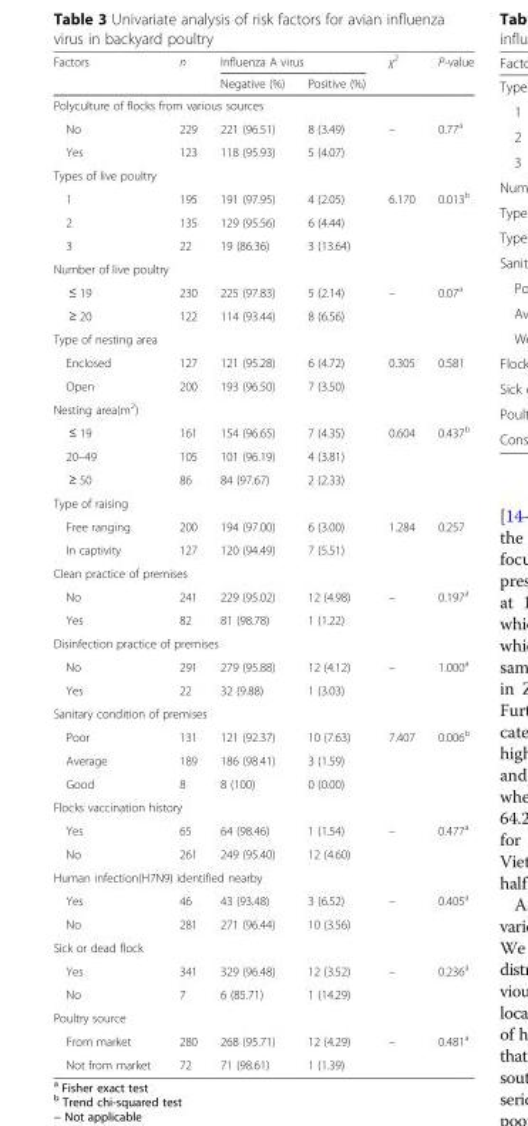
<table><thead><tr><td rowspan="2">Factors</td><td rowspan="2">n</td><td colspan="2">Influenza A virus</td><td rowspan="2">χ<sup>2</sup></td><td rowspan="2">P-value</td></tr><tr><td>Negative (%)</td><td>Positive (%)</td></tr></thead><tbody><tr><td colspan="6">Polyculture of flocks from various sources</td></tr><tr><td>No</td><td>229</td><td>221 (96.51)</td><td>8 (3.49)</td><td>–</td><td>0.77<sup>a</sup></td></tr><tr><td>Yes</td><td>123</td><td>118 (95.93)</td><td>5 (4.07)</td><td></td><td></td></tr><tr><td colspan="6">Types of live poultry</td></tr><tr><td>1</td><td>195</td><td>191 (97.95)</td><td>4 (2.05)</td><td>6.170</td><td>0.013<sup>b</sup></td></tr><tr><td>2</td><td>135</td><td>129 (95.56)</td><td>6 (4.44)</td><td></td><td></td></tr><tr><td>3</td><td>22</td><td>19 (86.36)</td><td>3 (13.64)</td><td></td><td></td></tr><tr><td colspan="6">Number of live poultry</td></tr><tr><td>≤ 19</td><td>230</td><td>225 (97.83)</td><td>5 (2.14)</td><td>–</td><td>0.07<sup>a</sup></td></tr><tr><td>≥ 20</td><td>122</td><td>114 (93.44)</td><td>8 (6.56)</td><td></td><td></td></tr><tr><td colspan="6">Type of nesting area</td></tr><tr><td>Enclosed</td><td>127</td><td>121 (95.28)</td><td>6 (4.72)</td><td>0.305</td><td>0.581</td></tr><tr><td>Open</td><td>200</td><td>193 (96.50)</td><td>7 (3.50)</td><td></td><td></td></tr><tr><td colspan="6">Nesting area(m<sup>2</sup>)</td></tr><tr><td>≤ 19</td><td>161</td><td>154 (96.65)</td><td>7 (4.35)</td><td>0.604</td><td>0.437<sup>b</sup></td></tr><tr><td>20–49</td><td>105</td><td>101 (96.19)</td><td>4 (3.81)</td><td></td><td></td></tr><tr><td>≥ 50</td><td>86</td><td>84 (97.67)</td><td>2 (2.33)</td><td></td><td></td></tr><tr><td colspan="6">Type of raising</td></tr><tr><td>Free ranging</td><td>200</td><td>194 (97.00)</td><td>6 (3.00)</td><td>1.284</td><td>0.257</td></tr><tr><td>In captivity</td><td>127</td><td>120 (94.49)</td><td>7 (5.51)</td><td></td><td></td></tr><tr><td colspan="6">Clean practice of premises</td></tr><tr><td>No</td><td>241</td><td>229 (95.02)</td><td>12 (4.98)</td><td>–</td><td>0.197<sup>a</sup></td></tr><tr><td>Yes</td><td>82</td><td>81 (98.78)</td><td>1 (1.22)</td><td></td><td></td></tr><tr><td colspan="6">Disinfection practice of premises</td></tr><tr><td>No</td><td>291</td><td>279 (95.88)</td><td>12 (4.12)</td><td>–</td><td>1.000<sup>a</sup></td></tr><tr><td>Yes</td><td>22</td><td>32 (9.88)</td><td>1 (3.03)</td><td></td><td></td></tr><tr><td colspan="6">Sanitary condition of premises</td></tr><tr><td>Poor</td><td>131</td><td>121 (92.37)</td><td>10 (7.63)</td><td>7.407</td><td>0.006<sup>b</sup></td></tr><tr><td>Average</td><td>189</td><td>186 (98.41)</td><td>3 (1.59)</td><td></td><td></td></tr><tr><td>Good</td><td>8</td><td>8 (100)</td><td>0 (0.00)</td><td></td><td></td></tr><tr><td colspan="6">Flocks vaccination history</td></tr><tr><td>Yes</td><td>65</td><td>64 (98.46)</td><td>1 (1.54)</td><td>–</td><td>0.477<sup>a</sup></td></tr><tr><td>No</td><td>261</td><td>249 (95.40)</td><td>12 (4.60)</td><td></td><td></td></tr><tr><td colspan="6">Human infection(H7N9) identified nearby</td></tr><tr><td>Yes</td><td>46</td><td>43 (93.48)</td><td>3 (6.52)</td><td>–</td><td>0.405<sup>a</sup></td></tr><tr><td>No</td><td>281</td><td>271 (96.44)</td><td>10 (3.56)</td><td></td><td></td></tr><tr><td colspan="6">Sick or dead flock</td></tr><tr><td>Yes</td><td>341</td><td>329 (96.48)</td><td>12 (3.52)</td><td>–</td><td>0.236<sup>a</sup></td></tr><tr><td>No</td><td>7</td><td>6 (85.71)</td><td>1 (14.29)</td><td></td><td></td></tr><tr><td colspan="6">Poultry source</td></tr><tr><td>From market</td><td>280</td><td>268 (95.71)</td><td>12 (4.29)</td><td>–</td><td>0.481<sup>a</sup></td></tr><tr><td>Not from market</td><td>72</td><td>71 (98.61)</td><td>1 (1.39)</td><td></td><td></td></tr></tbody></table>